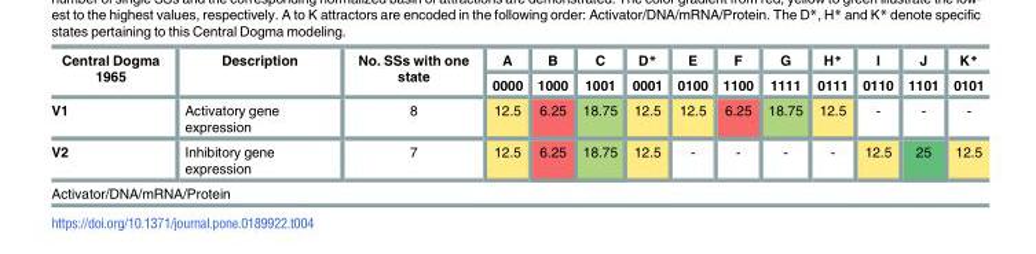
<table><thead><tr><td rowspan="2">Central Dogma 1965</td><td rowspan="2">Description</td><td rowspan="2">No. SSs with one state</td><td rowspan="2">A 0000</td><td rowspan="2">B 1000</td><td rowspan="2">C 1001</td><td rowspan="2">D* 0001</td><td rowspan="2">E 0100</td><td rowspan="2">F 1100</td><td rowspan="2">G 1111</td><td rowspan="2">H* 0111</td><td rowspan="2">I 0110</td><td rowspan="2">J 1101</td><td rowspan="2">K* 0101</td></tr><tr></tr></thead><tbody><tr><td>V1</td><td>Activatory gene expression</td><td>8</td><td>12.5</td><td>6.25</td><td>18.75</td><td>12.5</td><td>12.5</td><td>6.25</td><td>18.75</td><td>12.5</td><td>-</td><td>-</td><td>-</td></tr><tr><td>V2</td><td>Inhibitory gene expression</td><td>7</td><td>12.5</td><td>6.25</td><td>18.75</td><td>12.5</td><td>-</td><td>-</td><td>-</td><td>-</td><td>12.5</td><td>25</td><td>12.5</td></tr><tr><td colspan="14">Activator/DNA/mRNA/Protein</td></tr></tbody></table>